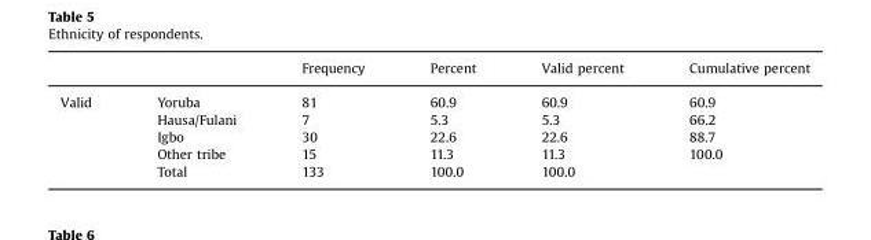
<table><thead><tr><td></td><td></td><td>Frequency</td><td>Percent</td><td>Valid percent</td><td>Cumulative percent</td></tr></thead><tbody><tr><td rowspan="5">Valid</td><td>Yoruba</td><td>81</td><td>60.9</td><td>60.9</td><td>60.9</td></tr><tr><td>Hausa/Fulani</td><td>7</td><td>5.3</td><td>5.3</td><td>66.2</td></tr><tr><td>Igbo</td><td>30</td><td>22.6</td><td>22.6</td><td>88.7</td></tr><tr><td>Other tribe</td><td>15</td><td>11.3</td><td>11.3</td><td>100.0</td></tr><tr><td>Total</td><td>133</td><td>100.0</td><td>100.0</td><td></td></tr></tbody></table>